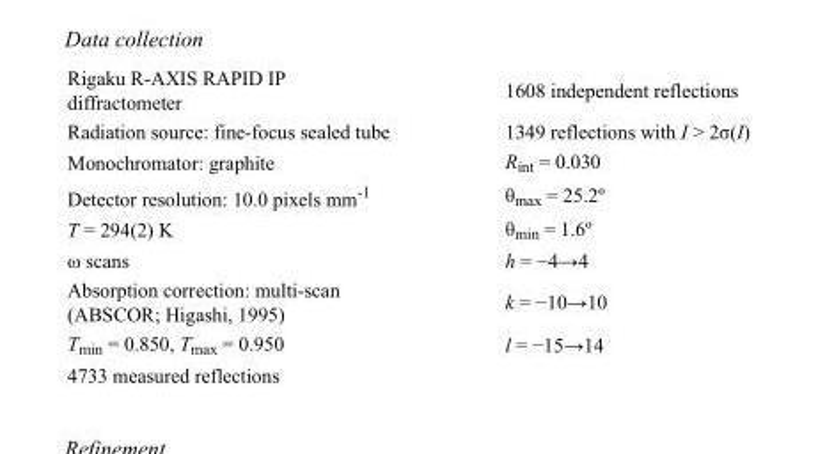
<table><tbody><tr><td>Rigaku R-AXIS RAPID IP diffractometer</td><td>1608 independent reflections</td></tr><tr><td>Radiation source: fine-focus sealed tube</td><td>1349 reflections with I &gt; 2σ(I)</td></tr><tr><td>Monochromator: graphite</td><td>R<sub>int</sub> = 0.030</td></tr><tr><td>Detector resolution: 10.0 pixels mm<sup>-1</sup></td><td>θ<sub>max</sub> = 25.2º</td></tr><tr><td>T = 294(2) K</td><td>θ<sub>min</sub> = 1.6º</td></tr><tr><td>ω scans</td><td>h = −4→4</td></tr><tr><td>Absorption correction: multi-scan (ABSCOR; Higashi, 1995)</td><td>k = −10→10</td></tr><tr><td>T<sub>min</sub> = 0.850, T<sub>max</sub> = 0.950</td><td>l = −15→14</td></tr><tr><td>4733 measured reflections</td><td></td></tr></tbody></table>